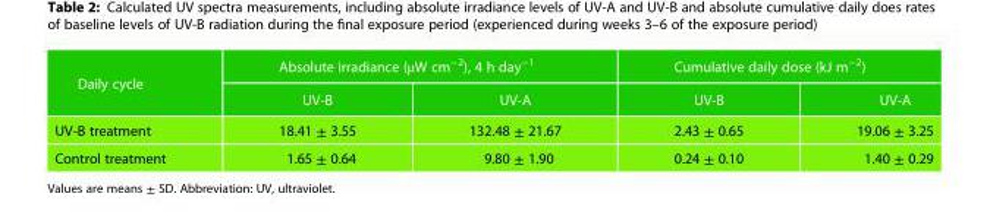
<table><thead><tr><td rowspan="2">Daily cycle</td><td colspan="2">Absolute irradiance (µW cm<sup>−2</sup>), 4 h day<sup>−1</sup></td><td colspan="2">Cumulative daily dose (kJ m<sup>−2</sup>)</td></tr><tr><td>UV-B</td><td>UV-A</td><td>UV-B</td><td>UV-A</td></tr></thead><tbody><tr><td>UV-B treatment</td><td>18.41 ± 3.55</td><td>132.48 ± 21.67</td><td>2.43 ± 0.65</td><td>19.06 ± 3.25</td></tr><tr><td>Control treatment</td><td>1.65 ± 0.64</td><td>9.80 ± 1.90</td><td>0.24 ± 0.10</td><td>1.40 ± 0.29</td></tr></tbody></table>